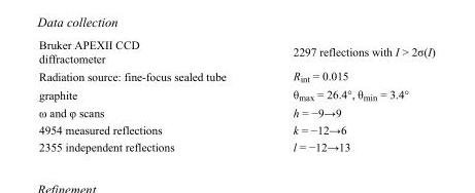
<table><tbody><tr><td>Bruker APEXII CCD diffractometer</td><td>2297 reflections with I &gt; 2σ(I)</td></tr><tr><td>Radiation source: fine-focus sealed tube</td><td>R<sub>int</sub> = 0.015</td></tr><tr><td>graphite</td><td>θ<sub>max</sub> = 26.4°, θ<sub>min</sub> = 3.4°</td></tr><tr><td>ω and φ scans</td><td>h = −9→9</td></tr><tr><td>4954 measured reflections</td><td>k = −12→6</td></tr><tr><td>2355 independent reflections</td><td>l = −12→13</td></tr></tbody></table>